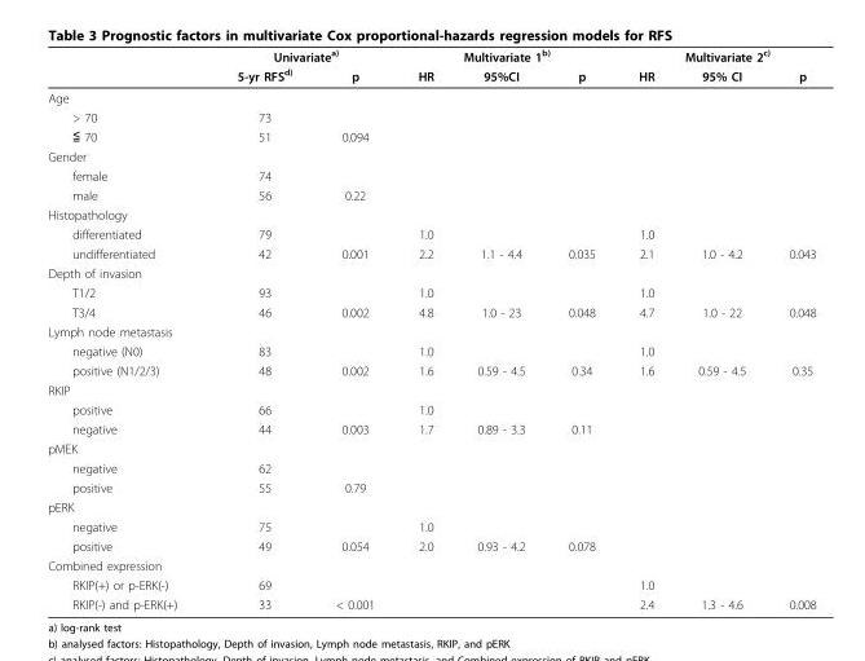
<table><thead><tr><td rowspan="2"></td><td colspan="2">Univariate<sup>a)</sup></td><td colspan="3">Multivariate 1<sup>b)</sup></td><td colspan="3">Multivariate 2<sup>c)</sup></td></tr><tr><td>5-yr RFS<sup>d)</sup></td><td>p</td><td>HR</td><td>95%CI</td><td>p</td><td>HR</td><td>95% CI</td><td>p</td></tr></thead><tbody><tr><td colspan="9">Age</td></tr><tr><td>&gt; 70</td><td>73</td><td></td><td></td><td></td><td></td><td></td><td></td><td></td></tr><tr><td>≦ 70</td><td>51</td><td>0.094</td><td></td><td></td><td></td><td></td><td></td><td></td></tr><tr><td colspan="9">Gender</td></tr><tr><td>female</td><td>74</td><td></td><td></td><td></td><td></td><td></td><td></td><td></td></tr><tr><td>male</td><td>56</td><td>0.22</td><td></td><td></td><td></td><td></td><td></td><td></td></tr><tr><td colspan="9">Histopathology</td></tr><tr><td>differentiated</td><td>79</td><td></td><td>1.0</td><td></td><td></td><td>1.0</td><td></td><td></td></tr><tr><td>undifferentiated</td><td>42</td><td>0.001</td><td>2.2</td><td>1.1 - 4.4</td><td>0.035</td><td>2.1</td><td>1.0 - 4.2</td><td>0.043</td></tr><tr><td colspan="9">Depth of invasion</td></tr><tr><td>T1/2</td><td>93</td><td></td><td>1.0</td><td></td><td></td><td>1.0</td><td></td><td></td></tr><tr><td>T3/4</td><td>46</td><td>0.002</td><td>4.8</td><td>1.0 - 23</td><td>0.048</td><td>4.7</td><td>1.0 - 22</td><td>0.048</td></tr><tr><td colspan="9">Lymph node metastasis</td></tr><tr><td>negative (N0)</td><td>83</td><td></td><td>1.0</td><td></td><td></td><td>1.0</td><td></td><td></td></tr><tr><td>positive (N1/2/3)</td><td>48</td><td>0.002</td><td>1.6</td><td>0.59 - 4.5</td><td>0.34</td><td>1.6</td><td>0.59 - 4.5</td><td>0.35</td></tr><tr><td colspan="9">RKIP</td></tr><tr><td>positive</td><td>66</td><td></td><td>1.0</td><td></td><td></td><td></td><td></td><td></td></tr><tr><td>negative</td><td>44</td><td>0.003</td><td>1.7</td><td>0.89 - 3.3</td><td>0.11</td><td></td><td></td><td></td></tr><tr><td colspan="9">pMEK</td></tr><tr><td>negative</td><td>62</td><td></td><td></td><td></td><td></td><td></td><td></td><td></td></tr><tr><td>positive</td><td>55</td><td>0.79</td><td></td><td></td><td></td><td></td><td></td><td></td></tr><tr><td colspan="9">pERK</td></tr><tr><td>negative</td><td>75</td><td></td><td>1.0</td><td></td><td></td><td></td><td></td><td></td></tr><tr><td>positive</td><td>49</td><td>0.054</td><td>2.0</td><td>0.93 - 4.2</td><td>0.078</td><td></td><td></td><td></td></tr><tr><td colspan="9">Combined expression</td></tr><tr><td>RKIP(+) or p-ERK(-)</td><td>69</td><td></td><td></td><td></td><td></td><td>1.0</td><td></td><td></td></tr><tr><td>RKIP(-) and p-ERK(+)</td><td>33</td><td>&lt; 0.001</td><td></td><td></td><td></td><td>2.4</td><td>1.3 - 4.6</td><td>0.008</td></tr></tbody></table>